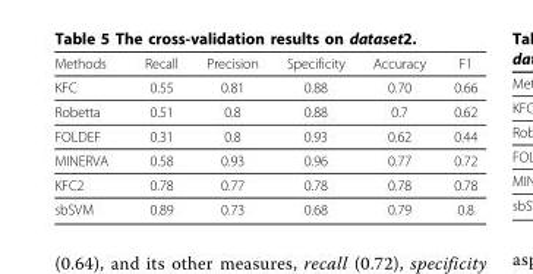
<table><thead><tr><td>Methods</td><td>Recall</td><td>Precision</td><td>Specificity</td><td>Accuracy</td><td>F1</td></tr></thead><tbody><tr><td>KFC</td><td>0.55</td><td>0.81</td><td>0.88</td><td>0.70</td><td>0.66</td></tr><tr><td>Robetta</td><td>0.51</td><td>0.8</td><td>0.88</td><td>0.7</td><td>0.62</td></tr><tr><td>FOLDEF</td><td>0.31</td><td>0.8</td><td>0.93</td><td>0.62</td><td>0.44</td></tr><tr><td>MINERVA</td><td>0.58</td><td>0.93</td><td>0.96</td><td>0.77</td><td>0.72</td></tr><tr><td>KFC2</td><td>0.78</td><td>0.77</td><td>0.78</td><td>0.78</td><td>0.78</td></tr><tr><td>sbSVM</td><td>0.89</td><td>0.73</td><td>0.68</td><td>0.79</td><td>0.8</td></tr></tbody></table>